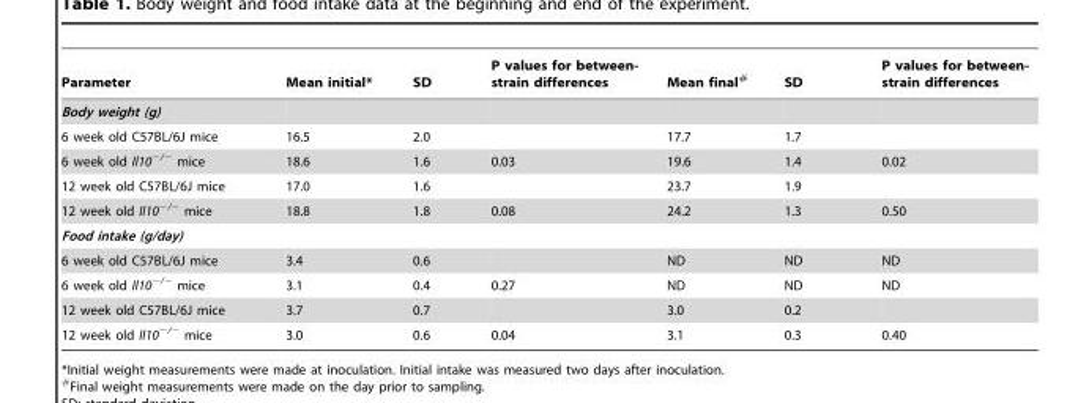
<table><thead><tr><td>Parameter</td><td>Mean initial*</td><td>SD</td><td>P values for between- strain differences</td><td>Mean final#</td><td>SD</td><td>P values for between- strain differences</td></tr></thead><tbody><tr><td colspan="7">Body weight (g)</td></tr><tr><td>6 week old C57BL/6J mice</td><td>16.5</td><td>2.0</td><td></td><td>17.7</td><td>1.7</td><td></td></tr><tr><td>6 week old Il10<sup>−/−</sup> mice</td><td>18.6</td><td>1.6</td><td>0.03</td><td>19.6</td><td>1.4</td><td>0.02</td></tr><tr><td>12 week old C57BL/6J mice</td><td>17.0</td><td>1.6</td><td></td><td>23.7</td><td>1.9</td><td></td></tr><tr><td>12 week old Il10<sup>−/−</sup> mice</td><td>18.8</td><td>1.8</td><td>0.08</td><td>24.2</td><td>1.3</td><td>0.50</td></tr><tr><td colspan="7">Food intake (g/day)</td></tr><tr><td>6 week old C57BL/6J mice</td><td>3.4</td><td>0.6</td><td></td><td>ND</td><td>ND</td><td>ND</td></tr><tr><td>6 week old Il10<sup>−/−</sup> mice</td><td>3.1</td><td>0.4</td><td>0.27</td><td>ND</td><td>ND</td><td>ND</td></tr><tr><td>12 week old C57BL/6J mice</td><td>3.7</td><td>0.7</td><td></td><td>3.0</td><td>0.2</td><td></td></tr><tr><td>12 week old Il10<sup>−/−</sup> mice</td><td>3.0</td><td>0.6</td><td>0.04</td><td>3.1</td><td>0.3</td><td>0.40</td></tr></tbody></table>